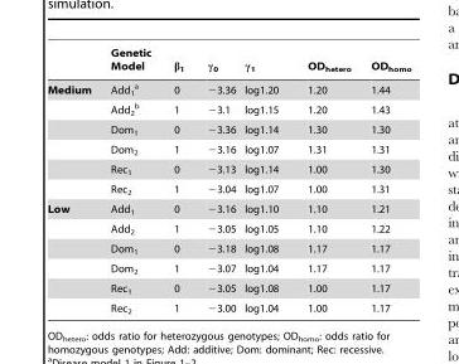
<table><thead><tr><td></td><td>Genetic Model</td><td>β<sub>1</sub></td><td>γ<sub>0</sub></td><td>γ<sub>1</sub></td><td>OD<sub>hetero</sub></td><td>OD<sub>homo</sub></td></tr></thead><tbody><tr><td rowspan="6">Medium</td><td>Add<sub>1</sub> a</td><td>0</td><td>−3.36</td><td>log1.20</td><td>1.20</td><td>1.44</td></tr><tr><td>Add<sub>2</sub> b</td><td>1</td><td>−3.1</td><td>log1.15</td><td>1.20</td><td>1.43</td></tr><tr><td>Dom<sub>1</sub></td><td>0</td><td>−3.36</td><td>log1.14</td><td>1.30</td><td>1.30</td></tr><tr><td>Dom<sub>2</sub></td><td>1</td><td>−3.16</td><td>log1.07</td><td>1.31</td><td>1.31</td></tr><tr><td>Rec<sub>1</sub></td><td>0</td><td>−3.13</td><td>log1.14</td><td>1.00</td><td>1.30</td></tr><tr><td>Rec<sub>2</sub></td><td>1</td><td>−3.04</td><td>log1.07</td><td>1.00</td><td>1.31</td></tr><tr><td rowspan="6">Low</td><td>Add<sub>1</sub></td><td>0</td><td>−3.16</td><td>log1.10</td><td>1.10</td><td>1.21</td></tr><tr><td>Add<sub>2</sub></td><td>1</td><td>−3.05</td><td>log1.05</td><td>1.10</td><td>1.22</td></tr><tr><td>Dom<sub>1</sub></td><td>0</td><td>−3.18</td><td>log1.08</td><td>1.17</td><td>1.17</td></tr><tr><td>Dom<sub>2</sub></td><td>1</td><td>−3.07</td><td>log1.04</td><td>1.17</td><td>1.17</td></tr><tr><td>Rec<sub>1</sub></td><td>0</td><td>−3.05</td><td>log1.08</td><td>1.00</td><td>1.17</td></tr><tr><td>Rec<sub>2</sub></td><td>1</td><td>−3.00</td><td>log1.04</td><td>1.00</td><td>1.17</td></tr></tbody></table>